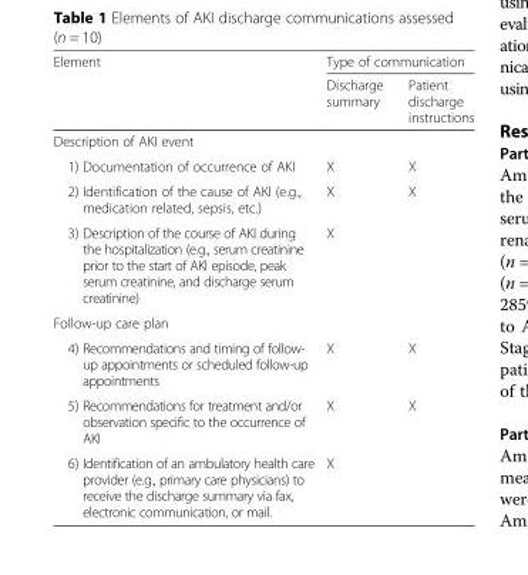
<table><thead><tr><td rowspan="2">Element</td><td colspan="2">Type of communication</td></tr><tr><td>Discharge summary</td><td>Patient discharge instructions</td></tr></thead><tbody><tr><td colspan="3">Description of AKI event</td></tr><tr><td>1) Documentation of occurrence of AKI</td><td>X</td><td>X</td></tr><tr><td>2) Identification of the cause of AKI (e.g., medication related, sepsis, etc.)</td><td>X</td><td>X</td></tr><tr><td>3) Description of the course of AKI during the hospitalization (e.g., serum creatinine prior to the start of AKI episode, peak serum creatinine, and discharge serum creatinine)</td><td>X</td><td></td></tr><tr><td colspan="3">Follow-up care plan</td></tr><tr><td>4) Recommendations and timing of follow- up appointments or scheduled follow-up appointments</td><td>X</td><td>X</td></tr><tr><td>5) Recommendations for treatment and/or observation specific to the occurrence of AKI</td><td>X</td><td>X</td></tr><tr><td>6) Identification of an ambulatory health care provider (e.g., primary care physicians) to receive the discharge summary via fax, electronic communication, or mail.</td><td>X</td><td></td></tr></tbody></table>